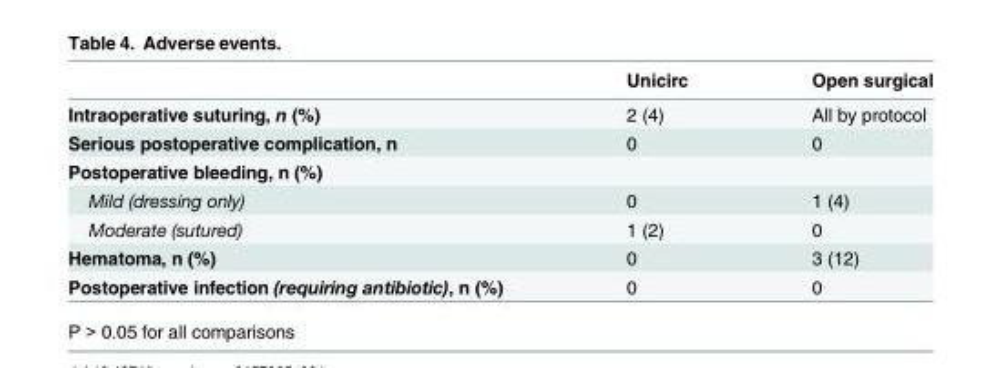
<table><thead><tr><td></td><td>Unicirc</td><td>Open surgical</td></tr></thead><tbody><tr><td>Intraoperative suturing, n (%)</td><td>2 (4)</td><td>All by protocol</td></tr><tr><td>Serious postoperative complication, n</td><td>0</td><td>0</td></tr><tr><td colspan="3">Postoperative bleeding, n (%)</td></tr><tr><td>Mild (dressing only)</td><td>0</td><td>1 (4)</td></tr><tr><td>Moderate (sutured)</td><td>1 (2)</td><td>0</td></tr><tr><td>Hematoma, n (%)</td><td>0</td><td>3 (12)</td></tr><tr><td>Postoperative infection (requiring antibiotic), n (%)</td><td>0</td><td>0</td></tr></tbody></table>